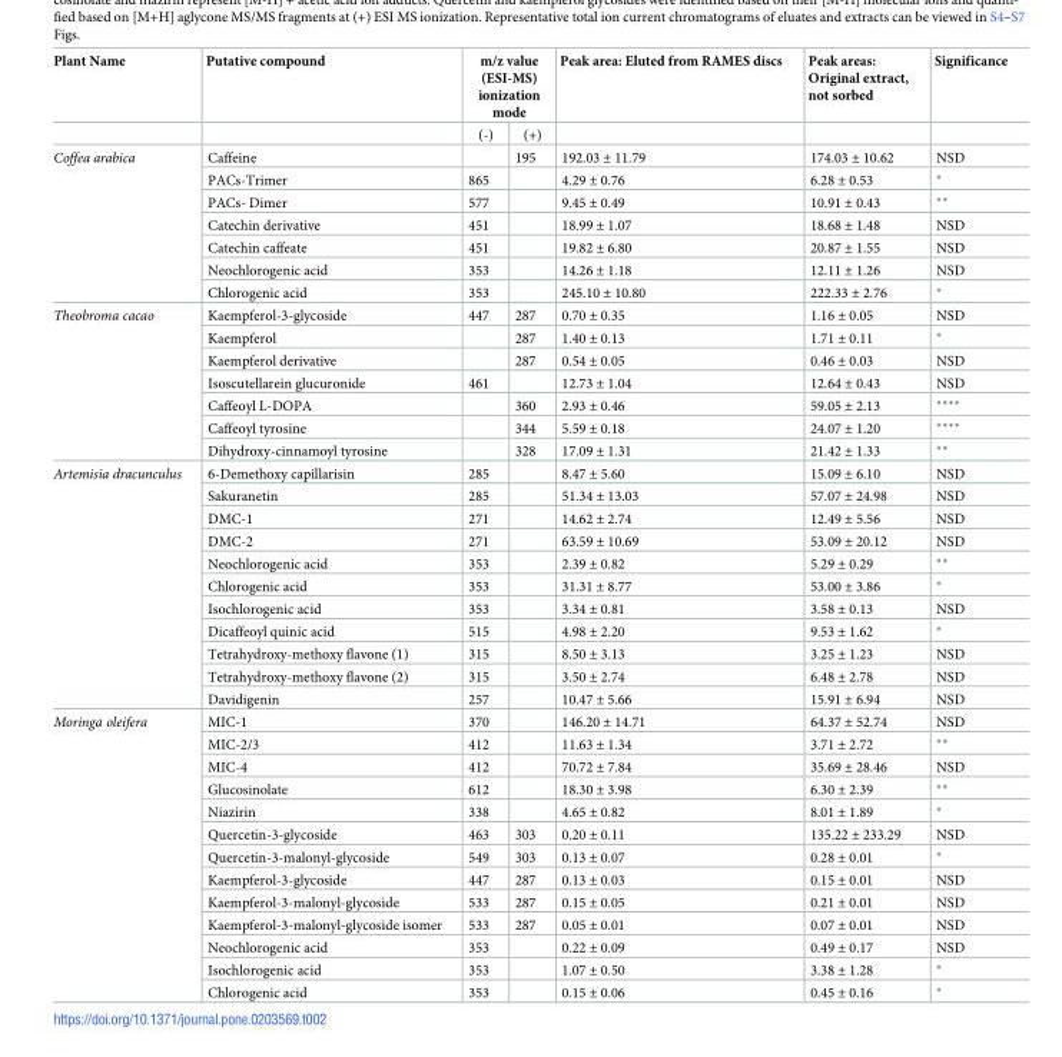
<table><thead><tr><td rowspan="2">Plant Name</td><td rowspan="2">Putative compound</td><td colspan="2">m/z value (ESI-MS) ionization mode</td><td rowspan="2">Peak area: Eluted from RAMES discs</td><td rowspan="2">Peak areas: Original extract, not sorbed</td><td rowspan="2">Significance</td></tr><tr><td>(-)</td><td>(+)</td></tr></thead><tbody><tr><td rowspan="7">Coffea arabica</td><td>Caffeine</td><td></td><td>195</td><td>192.03 ± 11.79</td><td>174.03 ± 10.62</td><td>NSD</td></tr><tr><td>PACs-Trimer</td><td>865</td><td></td><td>4.29 ± 0.76</td><td>6.28 ± 0.53</td><td>*</td></tr><tr><td>PACs- Dimer</td><td>577</td><td></td><td>9.45 ± 0.49</td><td>10.91 ± 0.43</td><td>**</td></tr><tr><td>Catechin derivative</td><td>451</td><td></td><td>18.99 ± 1.07</td><td>18.68 ± 1.48</td><td>NSD</td></tr><tr><td>Catechin caffeate</td><td>451</td><td></td><td>19.82 ± 6.80</td><td>20.87 ± 1.55</td><td>NSD</td></tr><tr><td>Neochlorogenic acid</td><td>353</td><td></td><td>14.26 ± 1.18</td><td>12.11 ± 1.26</td><td>NSD</td></tr><tr><td>Chlorogenic acid</td><td>353</td><td></td><td>245.10 ± 10.80</td><td>222.33 ± 2.76</td><td>*</td></tr><tr><td rowspan="7">Theobroma cacao</td><td>Kaempferol-3-glycoside</td><td>447</td><td>287</td><td>0.70 ± 0.35</td><td>1.16 ± 0.05</td><td>NSD</td></tr><tr><td>Kaempferol</td><td></td><td>287</td><td>1.40 ± 0.13</td><td>1.71 ± 0.11</td><td>*</td></tr><tr><td>Kaempferol derivative</td><td></td><td>287</td><td>0.54 ± 0.05</td><td>0.46 ± 0.03</td><td>NSD</td></tr><tr><td>Isoscutellarein glucuronide</td><td>461</td><td></td><td>12.73 ± 1.04</td><td>12.64 ± 0.43</td><td>NSD</td></tr><tr><td>Caffeoyl L-DOPA</td><td></td><td>360</td><td>2.93 ± 0.46</td><td>59.05 ± 2.13</td><td>****</td></tr><tr><td>Caffeoyl tyrosine</td><td></td><td>344</td><td>5.59 ± 0.18</td><td>24.07 ± 1.20</td><td>****</td></tr><tr><td>Dihydroxy-cinnamoyl tyrosine</td><td></td><td>328</td><td>17.09 ± 1.31</td><td>21.42 ± 1.33</td><td>**</td></tr><tr><td rowspan="11">Artemisia dracunculus</td><td>6-Demethoxy capillarisin</td><td>285</td><td></td><td>8.47 ± 5.60</td><td>15.09 ± 6.10</td><td>NSD</td></tr><tr><td>Sakuranetin</td><td>285</td><td></td><td>51.34 ± 13.03</td><td>57.07 ± 24.98</td><td>NSD</td></tr><tr><td>DMC-1</td><td>271</td><td></td><td>14.62 ± 2.74</td><td>12.49 ± 5.56</td><td>NSD</td></tr><tr><td>DMC-2</td><td>271</td><td></td><td>63.59 ± 10.69</td><td>53.09 ± 20.12</td><td>NSD</td></tr><tr><td>Neochlorogenic acid</td><td>353</td><td></td><td>2.39 ± 0.82</td><td>5.29 ± 0.29</td><td>**</td></tr><tr><td>Chlorogenic acid</td><td>353</td><td></td><td>31.31 ± 8.77</td><td>53.00 ± 3.86</td><td>*</td></tr><tr><td>Isochlorogenic acid</td><td>353</td><td></td><td>3.34 ± 0.81</td><td>3.58 ± 0.13</td><td>NSD</td></tr><tr><td>Dicaffeoyl quinic acid</td><td>515</td><td></td><td>4.98 ± 2.20</td><td>9.53 ± 1.62</td><td>*</td></tr><tr><td>Tetrahydroxy-methoxy flavone (1)</td><td>315</td><td></td><td>8.50 ± 3.13</td><td>3.25 ± 1.23</td><td>NSD</td></tr><tr><td>Tetrahydroxy-methoxy flavone (2)</td><td>315</td><td></td><td>3.50 ± 2.74</td><td>6.48 ± 2.78</td><td>NSD</td></tr><tr><td>Davidigenin</td><td>257</td><td></td><td>10.47 ± 5.66</td><td>15.91 ± 6.94</td><td>NSD</td></tr><tr><td rowspan="13">Moringa oleifera</td><td>MIC-1</td><td>370</td><td></td><td>146.20 ± 14.71</td><td>64.37 ± 52.74</td><td>NSD</td></tr><tr><td>MIC-2/3</td><td>412</td><td></td><td>11.63 ± 1.34</td><td>3.71 ± 2.72</td><td>**</td></tr><tr><td>MIC-4</td><td>412</td><td></td><td>70.72 ± 7.84</td><td>35.69 ± 28.46</td><td>NSD</td></tr><tr><td>Glucosinolate</td><td>612</td><td></td><td>18.30 ± 3.98</td><td>6.30 ± 2.39</td><td>**</td></tr><tr><td>Niazirin</td><td>338</td><td></td><td>4.65 ± 0.82</td><td>8.01 ± 1.89</td><td>*</td></tr><tr><td>Quercetin-3-glycoside</td><td>463</td><td>303</td><td>0.20 ± 0.11</td><td>135.22 ± 233.29</td><td>NSD</td></tr><tr><td>Quercetin-3-malonyl-glycoside</td><td>549</td><td>303</td><td>0.13 ± 0.07</td><td>0.28 ± 0.01</td><td>*</td></tr><tr><td>Kaempferol-3-glycoside</td><td>447</td><td>287</td><td>0.13 ± 0.03</td><td>0.15 ± 0.01</td><td>NSD</td></tr><tr><td>Kaempferol-3-malonyl-glycoside</td><td>533</td><td>287</td><td>0.15 ± 0.05</td><td>0.21 ± 0.01</td><td>NSD</td></tr><tr><td>Kaempferol-3-malonyl-glycoside isomer</td><td>533</td><td>287</td><td>0.05 ± 0.01</td><td>0.07 ± 0.01</td><td>NSD</td></tr><tr><td>Neochlorogenic acid</td><td>353</td><td></td><td>0.22 ± 0.09</td><td>0.49 ± 0.17</td><td>NSD</td></tr><tr><td>Isochlorogenic acid</td><td>353</td><td></td><td>1.07 ± 0.50</td><td>3.38 ± 1.28</td><td>*</td></tr><tr><td>Chlorogenic acid</td><td>353</td><td></td><td>0.15 ± 0.06</td><td>0.45 ± 0.16</td><td>*</td></tr></tbody></table>